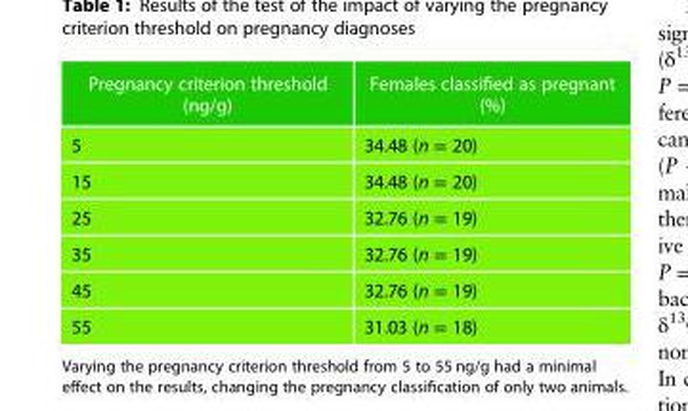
<table><thead><tr><td>Pregnancy criterion threshold (ng/g)</td><td>Females classified as pregnant (%)</td></tr></thead><tbody><tr><td>5</td><td>34.48 (n = 20)</td></tr><tr><td>15</td><td>34.48 (n = 20)</td></tr><tr><td>25</td><td>32.76 (n = 19)</td></tr><tr><td>35</td><td>32.76 (n = 19)</td></tr><tr><td>45</td><td>32.76 (n = 19)</td></tr><tr><td>55</td><td>31.03 (n = 18)</td></tr></tbody></table>